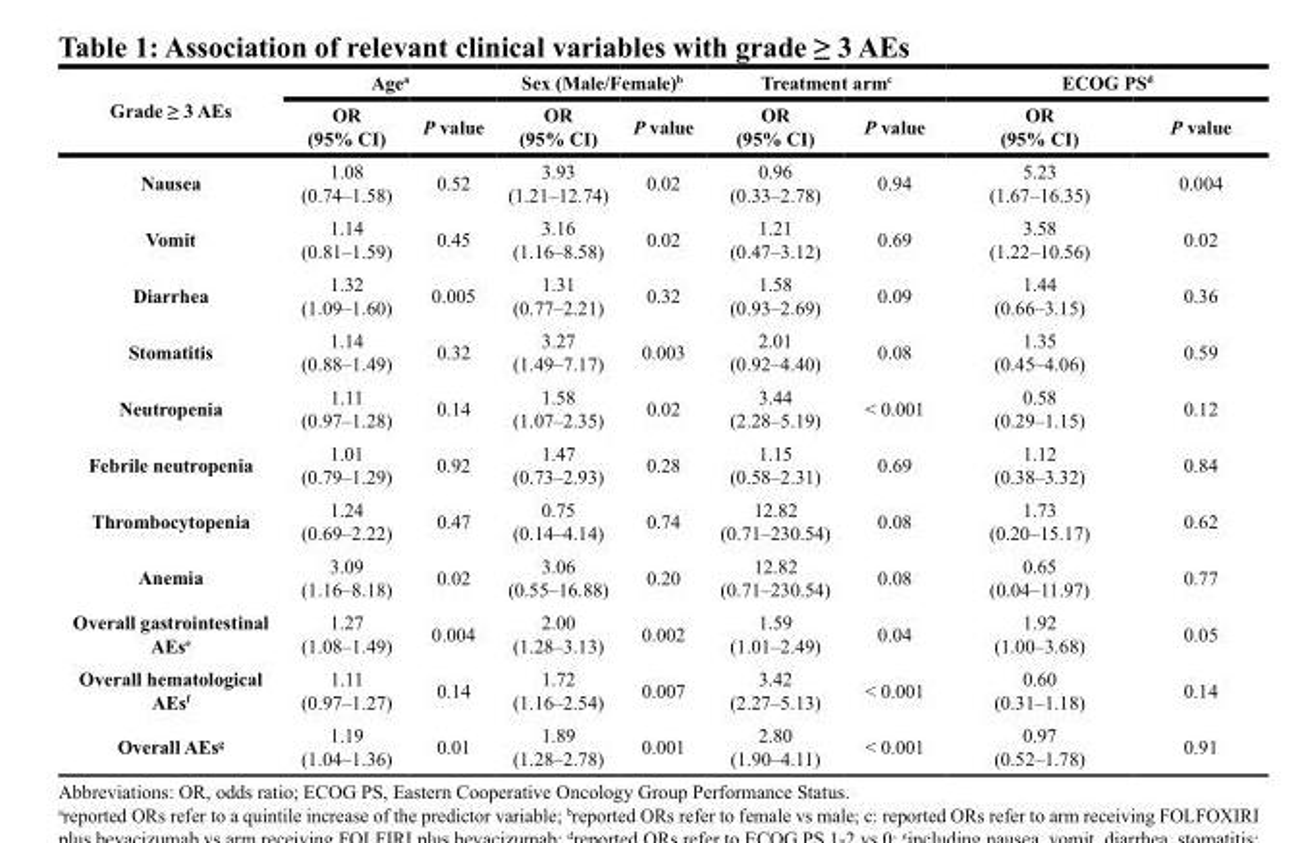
<table><thead><tr><td rowspan="2">Grade ≥ 3 AEs</td><td colspan="2">Age<sup>a</sup></td><td colspan="2">Sex (Male/Female)<sup>b</sup></td><td colspan="2">Treatment arm<sup>c</sup></td><td colspan="2">ECOG PS<sup>d</sup></td></tr><tr><td>OR (95% CI)</td><td>P value</td><td>OR (95% CI)</td><td>P value</td><td>OR (95% CI)</td><td>P value</td><td>OR (95% CI)</td><td>P value</td></tr></thead><tbody><tr><td>Nausea</td><td>1.08 (0.74–1.58)</td><td>0.52</td><td>3.93 (1.21–12.74)</td><td>0.02</td><td>0.96 (0.33–2.78)</td><td>0.94</td><td>5.23 (1.67–16.35)</td><td>0.004</td></tr><tr><td>Vomit</td><td>1.14 (0.81–1.59)</td><td>0.45</td><td>3.16 (1.16–8.58)</td><td>0.02</td><td>1.21 (0.47–3.12)</td><td>0.69</td><td>3.58 (1.22–10.56)</td><td>0.02</td></tr><tr><td>Diarrhea</td><td>1.32 (1.09–1.60)</td><td>0.005</td><td>1.31 (0.77–2.21)</td><td>0.32</td><td>1.58 (0.93–2.69)</td><td>0.09</td><td>1.44 (0.66–3.15)</td><td>0.36</td></tr><tr><td>Stomatitis</td><td>1.14 (0.88–1.49)</td><td>0.32</td><td>3.27 (1.49–7.17)</td><td>0.003</td><td>2.01 (0.92–4.40)</td><td>0.08</td><td>1.35 (0.45–4.06)</td><td>0.59</td></tr><tr><td>Neutropenia</td><td>1.11 (0.97–1.28)</td><td>0.14</td><td>1.58 (1.07–2.35)</td><td>0.02</td><td>3.44 (2.28–5.19)</td><td>&lt; 0.001</td><td>0.58 (0.29–1.15)</td><td>0.12</td></tr><tr><td>Febrile neutropenia</td><td>1.01 (0.79–1.29)</td><td>0.92</td><td>1.47 (0.73–2.93)</td><td>0.28</td><td>1.15 (0.58–2.31)</td><td>0.69</td><td>1.12 (0.38–3.32)</td><td>0.84</td></tr><tr><td>Thrombocytopenia</td><td>1.24 (0.69–2.22)</td><td>0.47</td><td>0.75 (0.14–4.14)</td><td>0.74</td><td>12.82 (0.71–230.54)</td><td>0.08</td><td>1.73 (0.20–15.17)</td><td>0.62</td></tr><tr><td>Anemia</td><td>3.09 (1.16–8.18)</td><td>0.02</td><td>3.06 (0.55–16.88)</td><td>0.20</td><td>12.82 (0.71–230.54)</td><td>0.08</td><td>0.65 (0.04–11.97)</td><td>0.77</td></tr><tr><td>Overall gastrointestinal AEs<sup>e</sup></td><td>1.27 (1.08–1.49)</td><td>0.004</td><td>2.00 (1.28–3.13)</td><td>0.002</td><td>1.59 (1.01–2.49)</td><td>0.04</td><td>1.92 (1.00–3.68)</td><td>0.05</td></tr><tr><td>Overall hematological AEs<sup>f</sup></td><td>1.11 (0.97–1.27)</td><td>0.14</td><td>1.72 (1.16–2.54)</td><td>0.007</td><td>3.42 (2.27–5.13)</td><td>&lt; 0.001</td><td>0.60 (0.31–1.18)</td><td>0.14</td></tr><tr><td>Overall AEs<sup>g</sup></td><td>1.19 (1.04–1.36)</td><td>0.01</td><td>1.89 (1.28–2.78)</td><td>0.001</td><td>2.80 (1.90–4.11)</td><td>&lt; 0.001</td><td>0.97 (0.52–1.78)</td><td>0.91</td></tr></tbody></table>